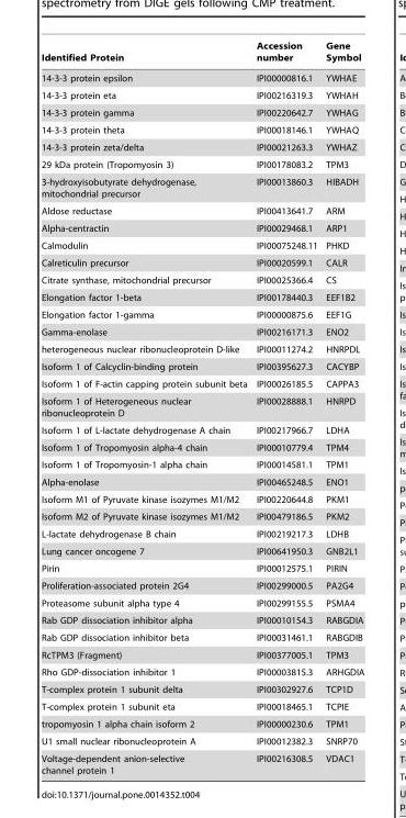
<table><thead><tr><td>Identified Protein</td><td>Accession number</td><td>Gene Symbol</td></tr></thead><tbody><tr><td>14-3-3 protein epsilon</td><td>IPI00000816.1</td><td>YWHAE</td></tr><tr><td>14-3-3 protein eta</td><td>IPI00216319.3</td><td>YWHAH</td></tr><tr><td>14-3-3 protein gamma</td><td>IPI00220642.7</td><td>YWHAG</td></tr><tr><td>14-3-3 protein theta</td><td>IPI00018146.1</td><td>YWHAQ</td></tr><tr><td>14-3-3 protein zeta/delta</td><td>IPI00021263.3</td><td>YWHAZ</td></tr><tr><td>29 kDa protein (Tropomyosin 3)</td><td>IPI00178083.2</td><td>TPM3</td></tr><tr><td>3-hydroxyisobutyrate dehydrogenase, mitochondrial precursor</td><td>IPI00013860.3</td><td>HIBADH</td></tr><tr><td>Aldose reductase</td><td>IPI00413641.7</td><td>ARM</td></tr><tr><td>Alpha-centractin</td><td>IPI00029468.1</td><td>ARP1</td></tr><tr><td>Calmodulin</td><td>IPI00075248.11</td><td>PHKD</td></tr><tr><td>Calreticulin precursor</td><td>IPI00020599.1</td><td>CALR</td></tr><tr><td>Citrate synthase, mitochondrial precursor</td><td>IPI00025366.4</td><td>CS</td></tr><tr><td>Elongation factor 1-beta</td><td>IPI00178440.3</td><td>EEF1B2</td></tr><tr><td>Elongation factor 1-gamma</td><td>IPI00000875.6</td><td>EEF1G</td></tr><tr><td>Gamma-enolase</td><td>IPI00216171.3</td><td>ENO2</td></tr><tr><td>heterogeneous nuclear ribonucleoprotein D-like</td><td>IPI00011274.2</td><td>HNRPDL</td></tr><tr><td>Isoform 1 of Calcyclin-binding protein</td><td>IPI00395627.3</td><td>CACYBP</td></tr><tr><td>Isoform 1 of F-actin capping protein subunit beta</td><td>IPI00026185.5</td><td>CAPPA3</td></tr><tr><td>Isoform 1 of Heterogeneous nuclear ribonucleoprotein D</td><td>IPI00028888.1</td><td>HNRPD</td></tr><tr><td>Isoform 1 of L-lactate dehydrogenase A chain</td><td>IPI00217966.7</td><td>LDHA</td></tr><tr><td>Isoform 1 of Tropomyosin alpha-4 chain</td><td>IPI00010779.4</td><td>TPM4</td></tr><tr><td>Isoform 1 of Tropomyosin-1 alpha chain</td><td>IPI00014581.1</td><td>TPM1</td></tr><tr><td>Alpha-enolase</td><td>IPI00465248.5</td><td>ENO1</td></tr><tr><td>Isoform M1 of Pyruvate kinase isozymes M1/M2</td><td>IPI00220644.8</td><td>PKM1</td></tr><tr><td>Isoform M2 of Pyruvate kinase isozymes M1/M2</td><td>IPI00479186.5</td><td>PKM2</td></tr><tr><td>L-lactate dehydrogenase B chain</td><td>IPI00219217.3</td><td>LDHB</td></tr><tr><td>Lung cancer oncogene 7</td><td>IPI00641950.3</td><td>GNB2L1</td></tr><tr><td>Pirin</td><td>IPI00012575.1</td><td>PIRIN</td></tr><tr><td>Proliferation-associated protein 2G4</td><td>IPI00299000.5</td><td>PA2G4</td></tr><tr><td>Proteasome subunit alpha type 4</td><td>IPI00299155.5</td><td>PSMA4</td></tr><tr><td>Rab GDP dissociation inhibitor alpha</td><td>IPI00010154.3</td><td>RABGDIA</td></tr><tr><td>Rab GDP dissociation inhibitor beta</td><td>IPI00031461.1</td><td>RABGDIB</td></tr><tr><td>RcTPM3 (Fragment)</td><td>IPI00377005.1</td><td>TPM3</td></tr><tr><td>Rho GDP-dissociation inhibitor 1</td><td>IPI00003815.3</td><td>ARHGDIA</td></tr><tr><td>T-complex protein 1 subunit delta</td><td>IPI00302927.6</td><td>TCP1D</td></tr><tr><td>T-complex protein 1 subunit eta</td><td>IPI00018465.1</td><td>TCPIE</td></tr><tr><td>tropomyosin 1 alpha chain isoform 2</td><td>IPI00000230.6</td><td>TPM1</td></tr><tr><td>U1 small nuclear ribonucleoprotein A</td><td>IPI00012382.3</td><td>SNRP70</td></tr><tr><td>Voltage-dependent anion-selective channel protein 1</td><td>IPI00216308.5</td><td>VDAC1</td></tr></tbody></table>